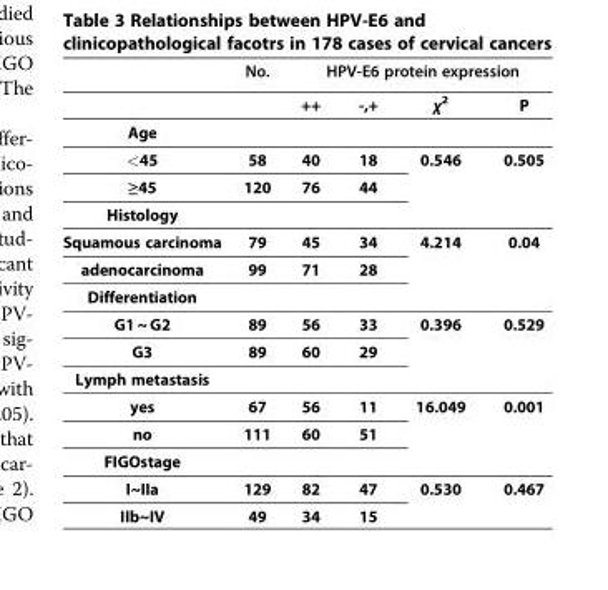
<table><thead><tr><td rowspan="2"></td><td rowspan="2">No.</td><td colspan="4">HPV-E6 protein expression</td></tr><tr><td>++</td><td>-,+</td><td>χ<sup>2</sup></td><td>P</td></tr></thead><tbody><tr><td colspan="6">Age</td></tr><tr><td>&lt;45</td><td>58</td><td>40</td><td>18</td><td rowspan="2">0.546</td><td rowspan="2">0.505</td></tr><tr><td>≥45</td><td>120</td><td>76</td><td>44</td></tr><tr><td colspan="6">Histology</td></tr><tr><td>Squamous carcinoma</td><td>79</td><td>45</td><td>34</td><td rowspan="2">4.214</td><td rowspan="2">0.04</td></tr><tr><td>adenocarcinoma</td><td>99</td><td>71</td><td>28</td></tr><tr><td colspan="6">Differentiation</td></tr><tr><td>G1 ~ G2</td><td>89</td><td>56</td><td>33</td><td rowspan="2">0.396</td><td rowspan="2">0.529</td></tr><tr><td>G3</td><td>89</td><td>60</td><td>29</td></tr><tr><td colspan="6">Lymph metastasis</td></tr><tr><td>yes</td><td>67</td><td>56</td><td>11</td><td rowspan="2">16.049</td><td rowspan="2">0.001</td></tr><tr><td>no</td><td>111</td><td>60</td><td>51</td></tr><tr><td colspan="6">FIGOstage</td></tr><tr><td>I~IIa</td><td>129</td><td>82</td><td>47</td><td rowspan="2">0.530</td><td rowspan="2">0.467</td></tr><tr><td>IIb~IV</td><td>49</td><td>34</td><td>15</td></tr></tbody></table>